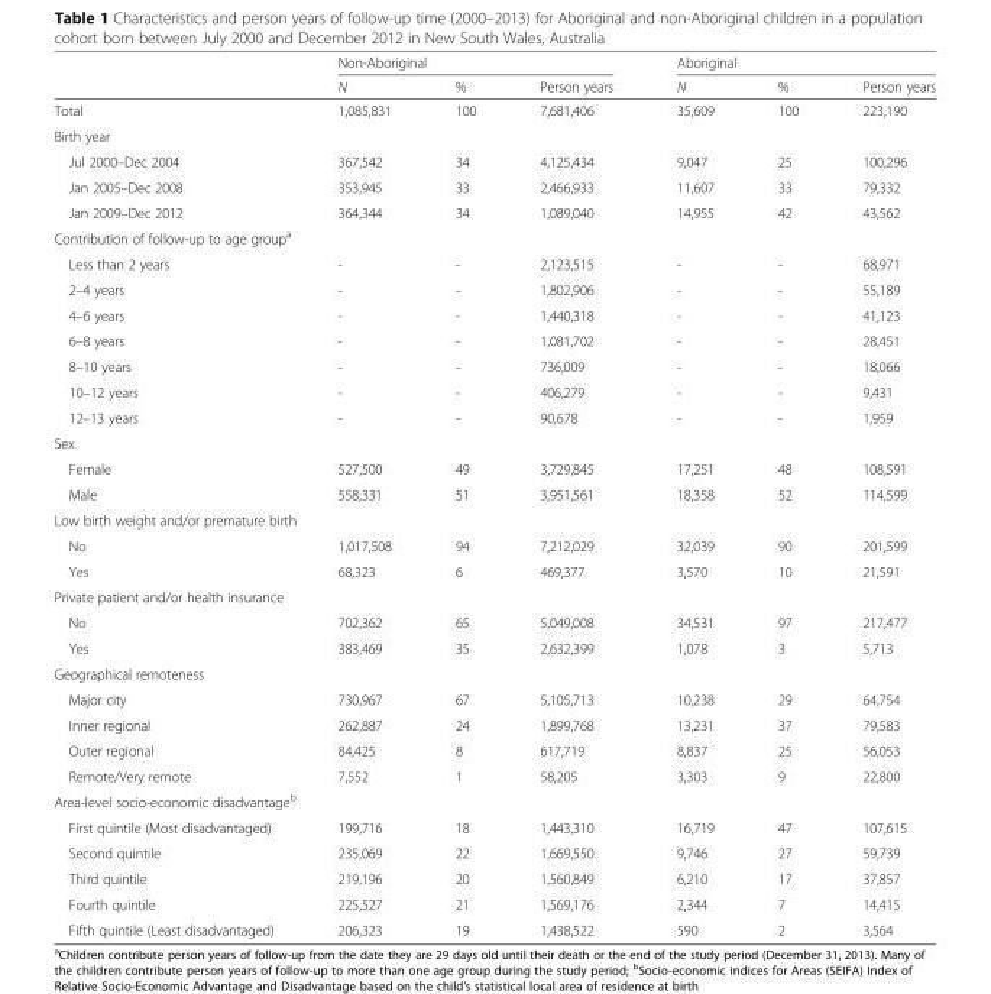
<table><thead><tr><td rowspan="2"></td><td colspan="3">Non-Aboriginal</td><td colspan="3">Aboriginal</td></tr><tr><td>N</td><td>%</td><td>Person years</td><td>N</td><td>%</td><td>Person years</td></tr></thead><tbody><tr><td>Total</td><td>1,085,831</td><td>100</td><td>7,681,406</td><td>35,609</td><td>100</td><td>223,190</td></tr><tr><td colspan="7">Birth year</td></tr><tr><td>Jul 2000–Dec 2004</td><td>367,542</td><td>34</td><td>4,125,434</td><td>9,047</td><td>25</td><td>100,296</td></tr><tr><td>Jan 2005–Dec 2008</td><td>353,945</td><td>33</td><td>2,466,933</td><td>11,607</td><td>33</td><td>79,332</td></tr><tr><td>Jan 2009–Dec 2012</td><td>364,344</td><td>34</td><td>1,089,040</td><td>14,955</td><td>42</td><td>43,562</td></tr><tr><td colspan="7">Contribution of follow-up to age group<sup>a</sup></td></tr><tr><td>Less than 2 years</td><td>-</td><td>-</td><td>2,123,515</td><td>-</td><td>-</td><td>68,971</td></tr><tr><td>2–4 years</td><td>-</td><td>-</td><td>1,802,906</td><td>-</td><td>-</td><td>55,189</td></tr><tr><td>4–6 years</td><td>-</td><td>-</td><td>1,440,318</td><td>-</td><td>-</td><td>41,123</td></tr><tr><td>6–8 years</td><td>-</td><td>-</td><td>1,081,702</td><td>-</td><td>-</td><td>28,451</td></tr><tr><td>8–10 years</td><td>-</td><td>-</td><td>736,009</td><td>-</td><td>-</td><td>18,066</td></tr><tr><td>10–12 years</td><td>-</td><td>-</td><td>406,279</td><td>-</td><td>-</td><td>9,431</td></tr><tr><td>12–13 years</td><td>-</td><td>-</td><td>90,678</td><td>-</td><td>-</td><td>1,959</td></tr><tr><td colspan="7">Sex</td></tr><tr><td>Female</td><td>527,500</td><td>49</td><td>3,729,845</td><td>17,251</td><td>48</td><td>108,591</td></tr><tr><td>Male</td><td>558,331</td><td>51</td><td>3,951,561</td><td>18,358</td><td>52</td><td>114,599</td></tr><tr><td colspan="7">Low birth weight and/or premature birth</td></tr><tr><td>No</td><td>1,017,508</td><td>94</td><td>7,212,029</td><td>32,039</td><td>90</td><td>201,599</td></tr><tr><td>Yes</td><td>68,323</td><td>6</td><td>469,377</td><td>3,570</td><td>10</td><td>21,591</td></tr><tr><td colspan="7">Private patient and/or health insurance</td></tr><tr><td>No</td><td>702,362</td><td>65</td><td>5,049,008</td><td>34,531</td><td>97</td><td>217,477</td></tr><tr><td>Yes</td><td>383,469</td><td>35</td><td>2,632,399</td><td>1,078</td><td>3</td><td>5,713</td></tr><tr><td colspan="7">Geographical remoteness</td></tr><tr><td>Major city</td><td>730,967</td><td>67</td><td>5,105,713</td><td>10,238</td><td>29</td><td>64,754</td></tr><tr><td>Inner regional</td><td>262,887</td><td>24</td><td>1,899,768</td><td>13,231</td><td>37</td><td>79,583</td></tr><tr><td>Outer regional</td><td>84,425</td><td>8</td><td>617,719</td><td>8,837</td><td>25</td><td>56,053</td></tr><tr><td>Remote/Very remote</td><td>7,552</td><td>1</td><td>58,205</td><td>3,303</td><td>9</td><td>22,800</td></tr><tr><td colspan="7">Area-level socio-economic disadvantage<sup>b</sup></td></tr><tr><td>First quintile (Most disadvantaged)</td><td>199,716</td><td>18</td><td>1,443,310</td><td>16,719</td><td>47</td><td>107,615</td></tr><tr><td>Second quintile</td><td>235,069</td><td>22</td><td>1,669,550</td><td>9,746</td><td>27</td><td>59,739</td></tr><tr><td>Third quintile</td><td>219,196</td><td>20</td><td>1,560,849</td><td>6,210</td><td>17</td><td>37,857</td></tr><tr><td>Fourth quintile</td><td>225,527</td><td>21</td><td>1,569,176</td><td>2,344</td><td>7</td><td>14,415</td></tr><tr><td>Fifth quintile (Least disadvantaged)</td><td>206,323</td><td>19</td><td>1,438,522</td><td>590</td><td>2</td><td>3,564</td></tr></tbody></table>